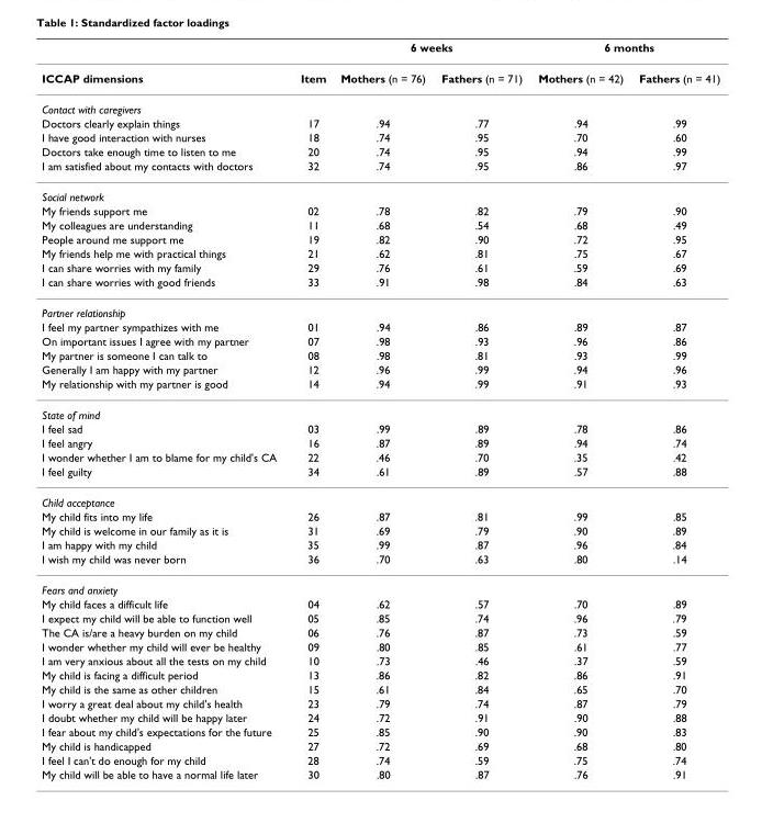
<table><thead><tr><td rowspan="2">ICCAP dimensions</td><td rowspan="2">Item</td><td colspan="2">6 weeks</td><td colspan="2">6 months</td></tr><tr><td>Mothers (n = 76)</td><td>Fathers (n = 71)</td><td>Mothers (n = 42)</td><td>Fathers (n = 41)</td></tr></thead><tbody><tr><td colspan="6">Contact with caregivers</td></tr><tr><td>Doctors clearly explain things</td><td>17</td><td>.94</td><td>.77</td><td>.94</td><td>.99</td></tr><tr><td>I have good interaction with nurses</td><td>18</td><td>.74</td><td>.95</td><td>.70</td><td>.60</td></tr><tr><td>Doctors take enough time to listen to me</td><td>20</td><td>.74</td><td>.95</td><td>.94</td><td>.99</td></tr><tr><td>I am satisfied about my contacts with doctors</td><td>32</td><td>.74</td><td>.95</td><td>.86</td><td>.97</td></tr><tr><td colspan="6">Social network</td></tr><tr><td>My friends support me</td><td>02</td><td>.78</td><td>.82</td><td>.79</td><td>.90</td></tr><tr><td>My colleagues are understanding</td><td>11</td><td>.68</td><td>.54</td><td>.68</td><td>.49</td></tr><tr><td>People around me support me</td><td>19</td><td>.82</td><td>.90</td><td>.72</td><td>.95</td></tr><tr><td>My friends help me with practical things</td><td>21</td><td>.62</td><td>.81</td><td>.75</td><td>.67</td></tr><tr><td>I can share worries with my family</td><td>29</td><td>.76</td><td>.61</td><td>.59</td><td>.69</td></tr><tr><td>I can share worries with good friends</td><td>33</td><td>.91</td><td>.98</td><td>.84</td><td>.63</td></tr><tr><td colspan="6">Partner relationship</td></tr><tr><td>I feel my partner sympathizes with me</td><td>01</td><td>.94</td><td>.86</td><td>.89</td><td>.87</td></tr><tr><td>On important issues I agree with my partner</td><td>07</td><td>.98</td><td>.93</td><td>.96</td><td>.86</td></tr><tr><td>My partner is someone I can talk to</td><td>08</td><td>.98</td><td>.81</td><td>.93</td><td>.99</td></tr><tr><td>Generally I am happy with my partner</td><td>12</td><td>.96</td><td>.99</td><td>.94</td><td>.96</td></tr><tr><td>My relationship with my partner is good</td><td>14</td><td>.94</td><td>.99</td><td>.91</td><td>.93</td></tr><tr><td colspan="6">State of mind</td></tr><tr><td>I feel sad</td><td>03</td><td>.99</td><td>.89</td><td>.78</td><td>.86</td></tr><tr><td>I feel angry</td><td>16</td><td>.87</td><td>.89</td><td>.94</td><td>.74</td></tr><tr><td>I wonder whether I am to blame for my child&#x27;s CA</td><td>22</td><td>.46</td><td>.70</td><td>.35</td><td>.42</td></tr><tr><td>I feel guilty</td><td>34</td><td>.61</td><td>.89</td><td>.57</td><td>.88</td></tr><tr><td colspan="6">Child acceptance</td></tr><tr><td>My child fits into my life</td><td>26</td><td>.87</td><td>.81</td><td>.99</td><td>.85</td></tr><tr><td>My child is welcome in our family as it is</td><td>31</td><td>.69</td><td>.79</td><td>.90</td><td>.89</td></tr><tr><td>I am happy with my child</td><td>35</td><td>.99</td><td>.87</td><td>.96</td><td>.84</td></tr><tr><td>I wish my child was never born</td><td>36</td><td>.70</td><td>.63</td><td>.80</td><td>.14</td></tr><tr><td colspan="6">Fears and anxiety</td></tr><tr><td>My child faces a difficult life</td><td>04</td><td>.62</td><td>.57</td><td>.70</td><td>.89</td></tr><tr><td>I expect my child will be able to function well</td><td>05</td><td>.85</td><td>.74</td><td>.96</td><td>.79</td></tr><tr><td>The CA is/are a heavy burden on my child</td><td>06</td><td>.76</td><td>.87</td><td>.73</td><td>.59</td></tr><tr><td>I wonder whether my child will ever be healthy</td><td>09</td><td>.80</td><td>.85</td><td>.61</td><td>.77</td></tr><tr><td>I am very anxious about all the tests on my child</td><td>10</td><td>.73</td><td>.46</td><td>.37</td><td>.59</td></tr><tr><td>My child is facing a difficult period</td><td>13</td><td>.86</td><td>.82</td><td>.86</td><td>.91</td></tr><tr><td>My child is the same as other children</td><td>15</td><td>.61</td><td>.84</td><td>.65</td><td>.70</td></tr><tr><td>I worry a great deal about my child&#x27;s health</td><td>23</td><td>.79</td><td>.74</td><td>.87</td><td>.79</td></tr><tr><td>I doubt whether my child will be happy later</td><td>24</td><td>.72</td><td>.91</td><td>.90</td><td>.88</td></tr><tr><td>I fear about my child&#x27;s expectations for the future</td><td>25</td><td>.85</td><td>.90</td><td>.90</td><td>.83</td></tr><tr><td>My child is handicapped</td><td>27</td><td>.72</td><td>.69</td><td>.68</td><td>.80</td></tr><tr><td>I feel I can&#x27;t do enough for my child</td><td>28</td><td>.74</td><td>.59</td><td>.75</td><td>.74</td></tr><tr><td>My child will be able to have a normal life later</td><td>30</td><td>.80</td><td>.87</td><td>.76</td><td>.91</td></tr></tbody></table>